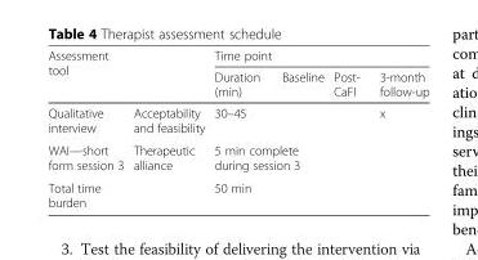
<table><thead><tr><td rowspan="2">Assessment tool</td><td rowspan="2"></td><td colspan="4">Time point</td></tr><tr><td>Duration (min)</td><td>Baseline</td><td>Post- CaFI</td><td>3-month follow-up</td></tr></thead><tbody><tr><td>Qualitative interview</td><td>Acceptability and feasibility</td><td>30–45</td><td></td><td></td><td>x</td></tr><tr><td>WAI—short form session 3</td><td>Therapeutic alliance</td><td colspan="4">5 min complete during session 3</td></tr><tr><td>Total time burden</td><td></td><td colspan="4">50 min</td></tr></tbody></table>